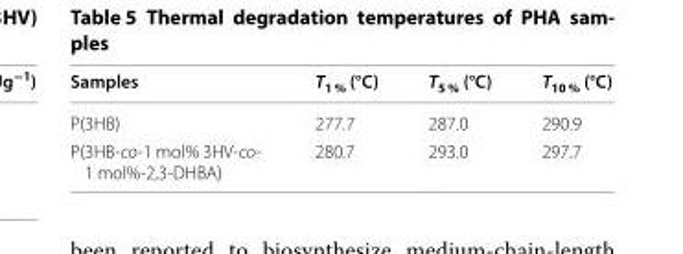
<table><thead><tr><td>Samples</td><td>T<sub>1 %</sub> (°C)</td><td>T<sub>5 %</sub> (°C)</td><td>T<sub>10 %</sub> (°C)</td></tr></thead><tbody><tr><td>P(3HB)</td><td>277.7</td><td>287.0</td><td>290.9</td></tr><tr><td>P(3HB-co-1 mol% 3HV-co- 1 mol%-2,3-DHBA)</td><td>280.7</td><td>293.0</td><td>297.7</td></tr></tbody></table>